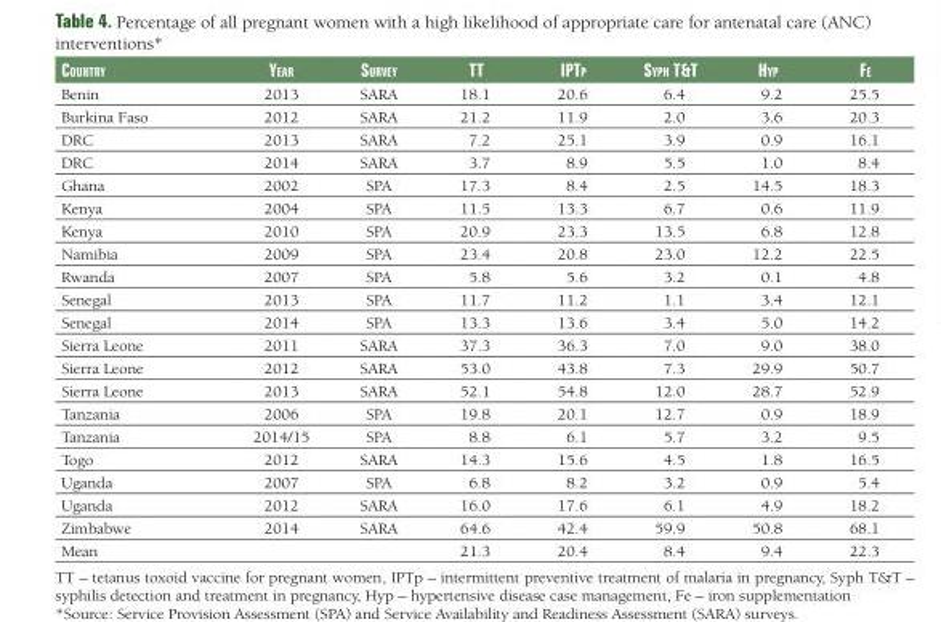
<table><thead><tr><td>country</td><td>year</td><td>survey</td><td>tt</td><td>iPtP</td><td>syPh t&amp;t</td><td>hyP</td><td>fe</td></tr></thead><tbody><tr><td>Benin</td><td>2013</td><td>SARA</td><td>18.1</td><td>20.6</td><td>6.4</td><td>9.2</td><td>25.5</td></tr><tr><td>Burkina Faso</td><td>2012</td><td>SARA</td><td>21.2</td><td>11.9</td><td>2.0</td><td>3.6</td><td>20.3</td></tr><tr><td>DRC</td><td>2013</td><td>SARA</td><td>7.2</td><td>25.1</td><td>3.9</td><td>0.9</td><td>16.1</td></tr><tr><td>DRC</td><td>2014</td><td>SARA</td><td>3.7</td><td>8.9</td><td>5.5</td><td>1.0</td><td>8.4</td></tr><tr><td>Ghana</td><td>2002</td><td>SPA</td><td>17.3</td><td>8.4</td><td>2.5</td><td>14.5</td><td>18.3</td></tr><tr><td>Kenya</td><td>2004</td><td>SPA</td><td>11.5</td><td>13.3</td><td>6.7</td><td>0.6</td><td>11.9</td></tr><tr><td>Kenya</td><td>2010</td><td>SPA</td><td>20.9</td><td>23.3</td><td>13.5</td><td>6.8</td><td>12.8</td></tr><tr><td>Namibia</td><td>2009</td><td>SPA</td><td>23.4</td><td>20.8</td><td>23.0</td><td>12.2</td><td>22.5</td></tr><tr><td>Rwanda</td><td>2007</td><td>SPA</td><td>5.8</td><td>5.6</td><td>3.2</td><td>0.1</td><td>4.8</td></tr><tr><td>Senegal</td><td>2013</td><td>SPA</td><td>11.7</td><td>11.2</td><td>1.1</td><td>3.4</td><td>12.1</td></tr><tr><td>Senegal</td><td>2014</td><td>SPA</td><td>13.3</td><td>13.6</td><td>3.4</td><td>5.0</td><td>14.2</td></tr><tr><td>Sierra Leone</td><td>2011</td><td>SARA</td><td>37.3</td><td>36.3</td><td>7.0</td><td>9.0</td><td>38.0</td></tr><tr><td>Sierra Leone</td><td>2012</td><td>SARA</td><td>53.0</td><td>43.8</td><td>7.3</td><td>29.9</td><td>50.7</td></tr><tr><td>Sierra Leone</td><td>2013</td><td>SARA</td><td>52.1</td><td>54.8</td><td>12.0</td><td>28.7</td><td>52.9</td></tr><tr><td>Tanzania</td><td>2006</td><td>SPA</td><td>19.8</td><td>20.1</td><td>12.7</td><td>0.9</td><td>18.9</td></tr><tr><td>Tanzania</td><td>2014/15</td><td>SPA</td><td>8.8</td><td>6.1</td><td>5.7</td><td>3.2</td><td>9.5</td></tr><tr><td>Togo</td><td>2012</td><td>SARA</td><td>14.3</td><td>15.6</td><td>4.5</td><td>1.8</td><td>16.5</td></tr><tr><td>Uganda</td><td>2007</td><td>SPA</td><td>6.8</td><td>8.2</td><td>3.2</td><td>0.9</td><td>5.4</td></tr><tr><td>Uganda</td><td>2012</td><td>SARA</td><td>16.0</td><td>17.6</td><td>6.1</td><td>4.9</td><td>18.2</td></tr><tr><td>Zimbabwe</td><td>2014</td><td>SARA</td><td>64.6</td><td>42.4</td><td>59.9</td><td>50.8</td><td>68.1</td></tr><tr><td>Mean</td><td></td><td></td><td>21.3</td><td>20.4</td><td>8.4</td><td>9.4</td><td>22.3</td></tr></tbody></table>